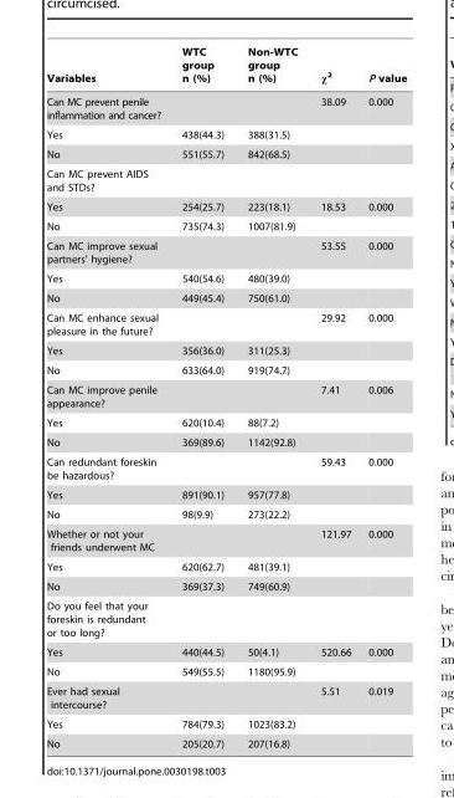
<table><thead><tr><td>Variables</td><td>WTC group n (%)</td><td>Non-WTC group n (%)</td><td>χ<sup>2</sup></td><td>P value</td></tr></thead><tbody><tr><td>Can MC prevent penile inflammation and cancer?</td><td></td><td></td><td>38.09</td><td>0.000</td></tr><tr><td>Yes</td><td>438(44.3)</td><td>388(31.5)</td><td></td><td></td></tr><tr><td>No</td><td>551(55.7)</td><td>842(68.5)</td><td></td><td></td></tr><tr><td colspan="5">Can MC prevent AIDS and STDs?</td></tr><tr><td>Yes</td><td>254(25.7)</td><td>223(18.1)</td><td>18.53</td><td>0.000</td></tr><tr><td>No</td><td>735(74.3)</td><td>1007(81.9)</td><td></td><td></td></tr><tr><td>Can MC improve sexual partners’ hygiene?</td><td></td><td></td><td>53.55</td><td>0.000</td></tr><tr><td>Yes</td><td>540(54.6)</td><td>480(39.0)</td><td></td><td></td></tr><tr><td>No</td><td>449(45.4)</td><td>750(61.0)</td><td></td><td></td></tr><tr><td>Can MC enhance sexual pleasure in the future?</td><td></td><td></td><td>29.92</td><td>0.000</td></tr><tr><td>Yes</td><td>356(36.0)</td><td>311(25.3)</td><td></td><td></td></tr><tr><td>No</td><td>633(64.0)</td><td>919(74.7)</td><td></td><td></td></tr><tr><td>Can MC improve penile appearance?</td><td></td><td></td><td>7.41</td><td>0.006</td></tr><tr><td>Yes</td><td>620(10.4)</td><td>88(7.2)</td><td></td><td></td></tr><tr><td>No</td><td>369(89.6)</td><td>1142(92.8)</td><td></td><td></td></tr><tr><td>Can redundant foreskin be hazardous?</td><td></td><td></td><td>59.43</td><td>0.000</td></tr><tr><td>Yes</td><td>891(90.1)</td><td>957(77.8)</td><td></td><td></td></tr><tr><td>No</td><td>98(9.9)</td><td>273(22.2)</td><td></td><td></td></tr><tr><td>Whether or not your friends underwent MC</td><td></td><td></td><td>121.97</td><td>0.000</td></tr><tr><td>Yes</td><td>620(62.7)</td><td>481(39.1)</td><td></td><td></td></tr><tr><td>No</td><td>369(37.3)</td><td>749(60.9)</td><td></td><td></td></tr><tr><td colspan="5">Do you feel that your foreskin is redundant or too long?</td></tr><tr><td>Yes</td><td>440(44.5)</td><td>50(4.1)</td><td>520.66</td><td>0.000</td></tr><tr><td>No</td><td>549(55.5)</td><td>1180(95.9)</td><td></td><td></td></tr><tr><td>Ever had sexual intercourse?</td><td></td><td></td><td>5.51</td><td>0.019</td></tr><tr><td>Yes</td><td>784(79.3)</td><td>1023(83.2)</td><td></td><td></td></tr><tr><td>No</td><td>205(20.7)</td><td>207(16.8)</td><td></td><td></td></tr></tbody></table>